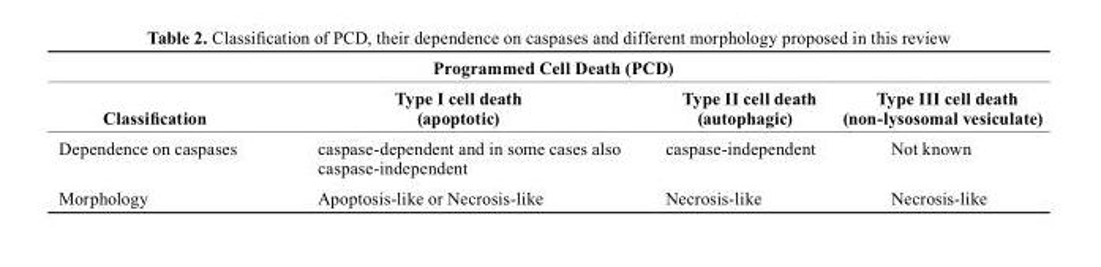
<table><thead><tr><td colspan="4">Programmed cell Death (PcD)</td></tr><tr><td>Classification</td><td>type I cell death (apoptotic)</td><td>type II cell death (autophagic)</td><td>type III cell death (non-lysosomal vesiculate)</td></tr></thead><tbody><tr><td>Dependence on caspases</td><td>caspase-dependent and in some cases also caspase-independent</td><td>caspase-independent</td><td>Not known</td></tr><tr><td>Morphology</td><td>Apoptosis-like or Necrosis-like</td><td>Necrosis-like</td><td>Necrosis-like</td></tr></tbody></table>